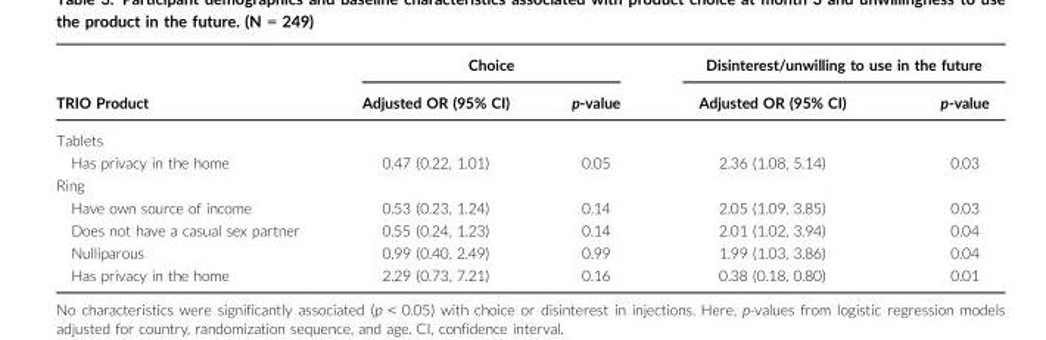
<table><thead><tr><td rowspan="2">TRIO Product</td><td colspan="2">Choice</td><td colspan="2">Disinterest/unwilling to use in the future</td></tr><tr><td>Adjusted OR (95% CI)</td><td>p-value</td><td>Adjusted OR (95% CI)</td><td>p-value</td></tr></thead><tbody><tr><td colspan="5">Tablets</td></tr><tr><td>Has privacy in the home</td><td>0.47 (0.22, 1.01)</td><td>0.05</td><td>2.36 (1.08, 5.14)</td><td>0.03</td></tr><tr><td colspan="5">Ring</td></tr><tr><td>Have own source of income</td><td>0.53 (0.23, 1.24)</td><td>0.14</td><td>2.05 (1.09, 3.85)</td><td>0.03</td></tr><tr><td>Does not have a casual sex partner</td><td>0.55 (0.24, 1.23)</td><td>0.14</td><td>2.01 (1.02, 3.94)</td><td>0.04</td></tr><tr><td>Nulliparous</td><td>0.99 (0.40, 2.49)</td><td>0.99</td><td>1.99 (1.03, 3.86)</td><td>0.04</td></tr><tr><td>Has privacy in the home</td><td>2.29 (0.73, 7.21)</td><td>0.16</td><td>0.38 (0.18, 0.80)</td><td>0.01</td></tr></tbody></table>